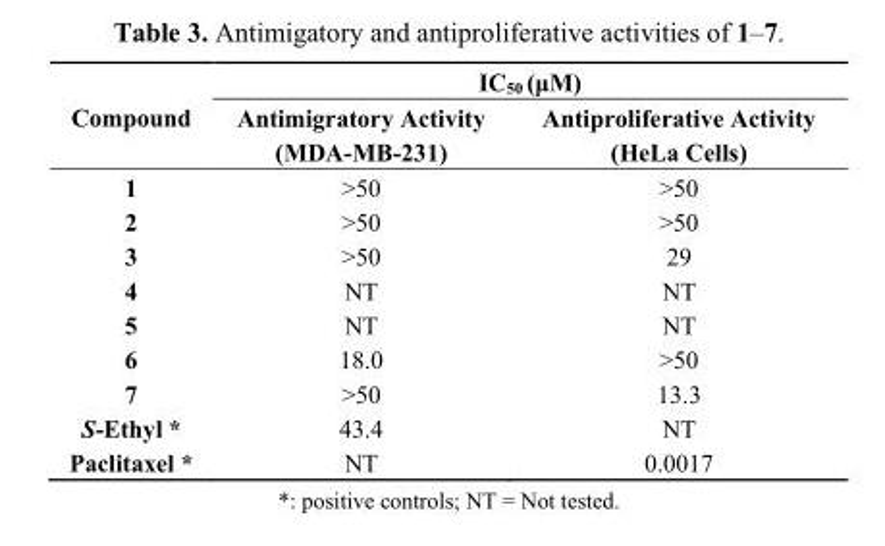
<table><thead><tr><td rowspan="2">Compound</td><td colspan="2">IC<sub>50</sub> (μM)</td></tr><tr><td>Antimigratory Activity (MDA-MB-231)</td><td>Antiproliferative Activity (HeLa Cells)</td></tr></thead><tbody><tr><td>1</td><td>&gt;50</td><td>&gt;50</td></tr><tr><td>2</td><td>&gt;50</td><td>&gt;50</td></tr><tr><td>3</td><td>&gt;50</td><td>29</td></tr><tr><td>4</td><td>NT</td><td>NT</td></tr><tr><td>5</td><td>NT</td><td>NT</td></tr><tr><td>6</td><td>18.0</td><td>&gt;50</td></tr><tr><td>7</td><td>&gt;50</td><td>13.3</td></tr><tr><td>S-Ethyl *</td><td>43.4</td><td>NT</td></tr><tr><td>Paclitaxel *</td><td>NT</td><td>0.0017</td></tr></tbody></table>